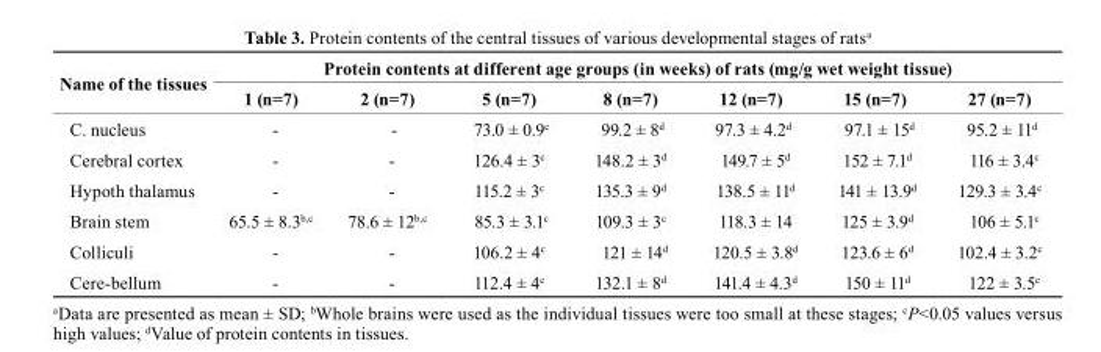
<table><thead><tr><td rowspan="2">Name of the tissues</td><td colspan="7">Protein contents at different age groups (in weeks) of rats (mg/g wet weight tissue)</td></tr><tr><td>1 (n=7)</td><td>2 (n=7)</td><td>5 (n=7)</td><td>8 (n=7)</td><td>12 (n=7)</td><td>15 (n=7)</td><td>27 (n=7)</td></tr></thead><tbody><tr><td>C. nucleus</td><td>-</td><td>-</td><td>73.0 ± 0.9<sup>c</sup></td><td>99.2 ± 8d</td><td>97.3 ± 4.2<sup>d</sup></td><td>97.1 ± 15<sup>d</sup></td><td>95.2 ± 11<sup>d</sup></td></tr><tr><td>Cerebral cortex</td><td>-</td><td>-</td><td>126.4 ± 3<sup>c</sup></td><td>148.2 ± 3<sup>d</sup></td><td>149.7 ± 5<sup>d</sup></td><td>152 ± 7.1<sup>d</sup></td><td>116 ± 3.4<sup>c</sup></td></tr><tr><td>Hypoth thalamus</td><td>-</td><td>-</td><td>115.2 ± 3<sup>c</sup></td><td>135.3 ± 9<sup>d</sup></td><td>138.5 ± 11<sup>d</sup></td><td>141 ± 13.9<sup>d</sup></td><td>129.3 ± 3.4<sup>c</sup></td></tr><tr><td>Brain stem</td><td>65.5 ± 8.3b,<sup>c</sup></td><td>78.6 ± 12b,<sup>c</sup></td><td>85.3 ± 3.1<sup>c</sup></td><td>109.3 ± 3<sup>c</sup></td><td>118.3 ± 14</td><td>125 ± 3.9<sup>d</sup></td><td>106 ± 5.1<sup>c</sup></td></tr><tr><td>Colliculi</td><td>-</td><td>-</td><td>106.2 ± 4<sup>c</sup></td><td>121 ± 14<sup>d</sup></td><td>120.5 ± 3.8<sup>d</sup></td><td>123.6 ± 6<sup>d</sup></td><td>102.4 ± 3.2<sup>c</sup></td></tr><tr><td>Cere-bellum</td><td>-</td><td>-</td><td>112.4 ± 4<sup>c</sup></td><td>132.1 ± 8<sup>d</sup></td><td>141.4 ± 4.3<sup>d</sup></td><td>150 ± 11<sup>d</sup></td><td>122 ± 3.5<sup>c</sup></td></tr></tbody></table>